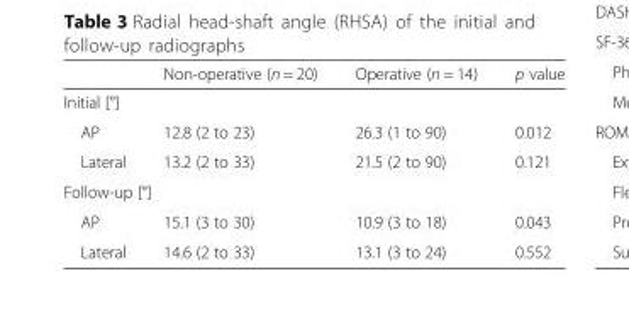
<table><thead><tr><td></td><td>Non-operative (n = 20)</td><td>Operative (n = 14)</td><td>p value</td></tr></thead><tbody><tr><td colspan="4">Initial [°]</td></tr><tr><td>AP</td><td>12.8 (2 to 23)</td><td>26.3 (1 to 90)</td><td>0.012</td></tr><tr><td>Lateral</td><td>13.2 (2 to 33)</td><td>21.5 (2 to 90)</td><td>0.121</td></tr><tr><td colspan="4">Follow-up [°]</td></tr><tr><td>AP</td><td>15.1 (3 to 30)</td><td>10.9 (3 to 18)</td><td>0.043</td></tr><tr><td>Lateral</td><td>14.6 (2 to 33)</td><td>13.1 (3 to 24)</td><td>0.552</td></tr></tbody></table>